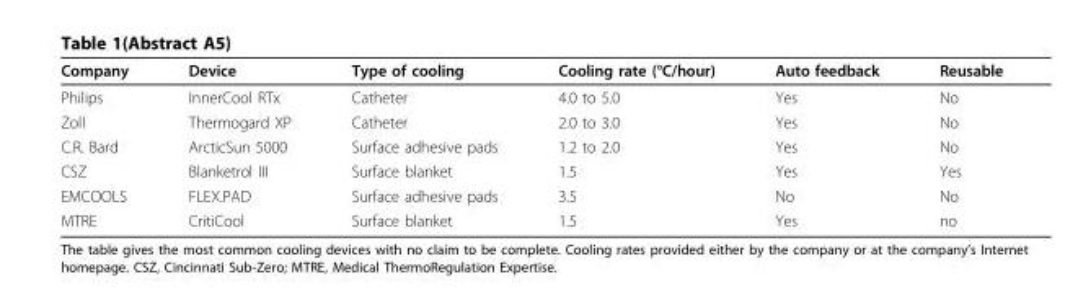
<table><thead><tr><td>Company</td><td>Device</td><td>Type of cooling</td><td>Cooling rate (°C/hour)</td><td>Auto feedback</td><td>Reusable</td></tr></thead><tbody><tr><td>Philips</td><td>InnerCool RTx</td><td>Catheter</td><td>4.0 to 5.0</td><td>Yes</td><td>No</td></tr><tr><td>Zoll</td><td>Thermogard XP</td><td>Catheter</td><td>2.0 to 3.0</td><td>Yes</td><td>No</td></tr><tr><td>C.R. Bard</td><td>ArcticSun 5000</td><td>Surface adhesive pads</td><td>1.2 to 2.0</td><td>Yes</td><td>No</td></tr><tr><td>CSZ</td><td>Blanketrol III</td><td>Surface blanket</td><td>1.5</td><td>Yes</td><td>Yes</td></tr><tr><td>EMCOOLS</td><td>FLEX.PAD</td><td>Surface adhesive pads</td><td>3.5</td><td>No</td><td>No</td></tr><tr><td>MTRE</td><td>CritiCool</td><td>Surface blanket</td><td>1.5</td><td>Yes</td><td>no</td></tr></tbody></table>